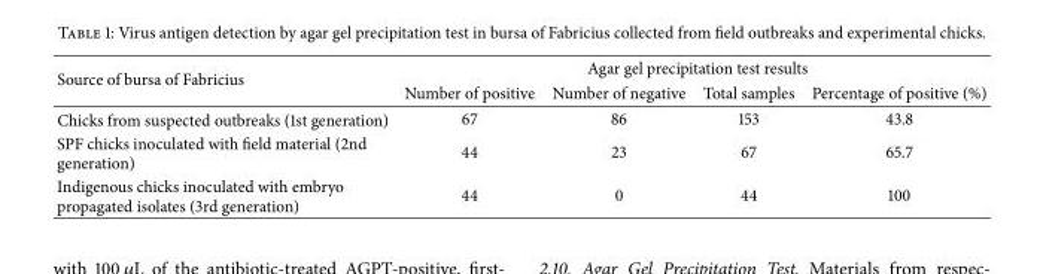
<table><thead><tr><td rowspan="2">Source of bursa of Fabricius</td><td colspan="4">Agar gel precipitation test results</td></tr><tr><td>Number of positive</td><td>Number of negative</td><td>Total samples</td><td>Percentage of positive (%)</td></tr></thead><tbody><tr><td>Chicks from suspected outbreaks (1st generation)</td><td>67</td><td>86</td><td>153</td><td>43.8</td></tr><tr><td>SPF chicks inoculated with field material (2nd generation)</td><td>44</td><td>23</td><td>67</td><td>65.7</td></tr><tr><td>Indigenous chicks inoculated with embryo propagated isolates (3rd generation)</td><td>44</td><td>0</td><td>44</td><td>100</td></tr></tbody></table>